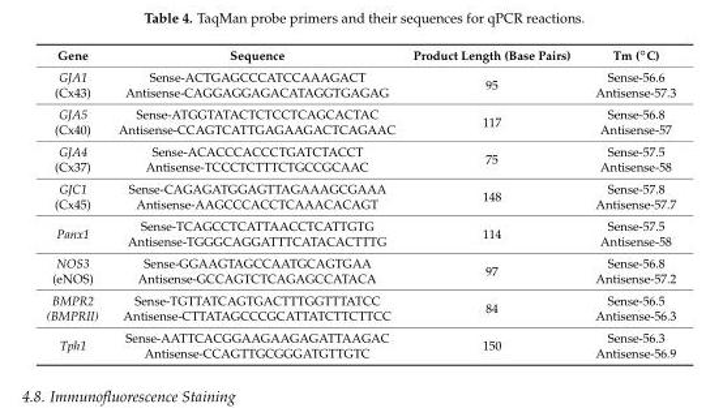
<table><thead><tr><td>Gene</td><td>Sequence</td><td>Product Length (Base Pairs)</td><td>Tm (◦C)</td></tr></thead><tbody><tr><td>GJA1 (Cx43)</td><td>Sense-ACTGAGCCCATCCAAAGACT Antisense-CAGGAGGAGACATAGGTGAGAG</td><td>95</td><td>Sense-56.6 Antisense-57.3</td></tr><tr><td>GJA5 (Cx40)</td><td>Sense-ATGGTATACTCTCCTCAGCACTAC Antisense-CCAGTCATTGAGAAGACTCAGAAC</td><td>117</td><td>Sense-56.8 Antisense-57</td></tr><tr><td>GJA4 (Cx37)</td><td>Sense-ACACCCACCCTGATCTACCT Antisense-TCCCTCTTTCTGCCGCAAC</td><td>75</td><td>Sense-57.5 Antisense-58</td></tr><tr><td>GJC1 (Cx45)</td><td>Sense-CAGAGATGGAGTTAGAAAGCGAAA Antisense-AAGCCCACCTCAAACACAGT</td><td>148</td><td>Sense-57.8 Antisense-57.7</td></tr><tr><td>Panx1</td><td>Sense-TCAGCCTCATTAACCTCATTGTG Antisense-TGGGCAGGATTTCATACACTTTG</td><td>114</td><td>Sense-57.5 Antisense-58</td></tr><tr><td>NOS3 (eNOS)</td><td>Sense-GGAAGTAGCCAATGCAGTGAA Antisense-GCCAGTCTCAGAGCCATACA</td><td>97</td><td>Sense-56.8 Antisense-57.2</td></tr><tr><td>BMPR2 (BMPRII)</td><td>Sense-TGTTATCAGTGACTTTGGTTTATCC Antisense-CTTATAGCCCGCATTATCTTCTTCC</td><td>84</td><td>Sense-56.5 Antisense-56.3</td></tr><tr><td>Tph1</td><td>Sense-AATTCACGGAAGAAGAGATTAAGAC Antisense-CCAGTTGCGGGATGTTGTC</td><td>150</td><td>Sense-56.3 Antisense-56.9</td></tr></tbody></table>